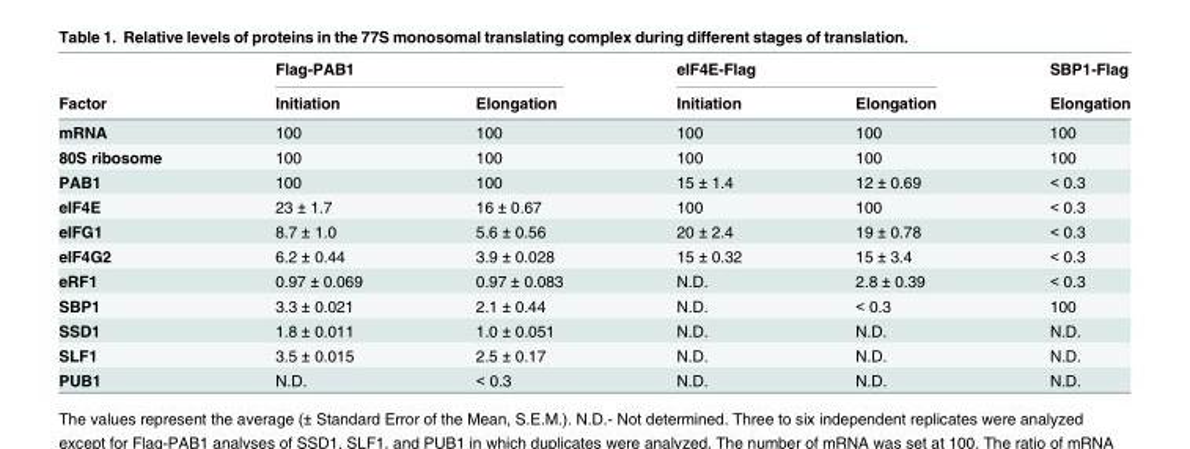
<table><thead><tr><td rowspan="2">Factor</td><td colspan="2">Flag-PAB1</td><td colspan="2">eIF4E-Flag</td><td rowspan="2">SBP1-Flag Elongation</td></tr><tr><td>Initiation</td><td>Elongation</td><td>Initiation</td><td>Elongation</td></tr></thead><tbody><tr><td>mRNA</td><td>100</td><td>100</td><td>100</td><td>100</td><td>100</td></tr><tr><td>80S ribosome</td><td>100</td><td>100</td><td>100</td><td>100</td><td>100</td></tr><tr><td>PAB1</td><td>100</td><td>100</td><td>15 ± 1.4</td><td>12 ± 0.69</td><td>&lt; 0.3</td></tr><tr><td>eIF4E</td><td>23 ± 1.7</td><td>16 ± 0.67</td><td>100</td><td>100</td><td>&lt; 0.3</td></tr><tr><td>eIFG1</td><td>8.7 ± 1.0</td><td>5.6 ± 0.56</td><td>20 ± 2.4</td><td>19 ± 0.78</td><td>&lt; 0.3</td></tr><tr><td>eIF4G2</td><td>6.2 ± 0.44</td><td>3.9 ± 0.028</td><td>15 ± 0.32</td><td>15 ± 3.4</td><td>&lt; 0.3</td></tr><tr><td>eRF1</td><td>0.97 ± 0.069</td><td>0.97 ± 0.083</td><td>N.D.</td><td>2.8 ± 0.39</td><td>&lt; 0.3</td></tr><tr><td>SBP1</td><td>3.3 ± 0.021</td><td>2.1 ± 0.44</td><td>N.D.</td><td>&lt; 0.3</td><td>100</td></tr><tr><td>SSD1</td><td>1.8 ± 0.011</td><td>1.0 ± 0.051</td><td>N.D.</td><td>N.D.</td><td>N.D.</td></tr><tr><td>SLF1</td><td>3.5 ± 0.015</td><td>2.5 ± 0.17</td><td>N.D.</td><td>N.D.</td><td>N.D.</td></tr><tr><td>PUB1</td><td>N.D.</td><td>&lt; 0.3</td><td>N.D.</td><td>N.D.</td><td>N.D.</td></tr></tbody></table>